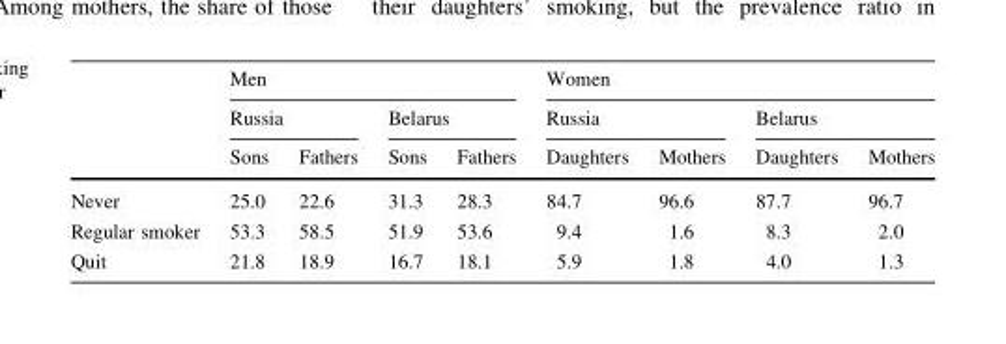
<table><thead><tr><td rowspan="3"></td><td colspan="4">Men</td><td colspan="4">Women</td></tr><tr><td colspan="2">Russia</td><td colspan="2">Belarus</td><td colspan="2">Russia</td><td colspan="2">Belarus</td></tr><tr><td>Sons</td><td>Fathers</td><td>Sons</td><td>Fathers</td><td>Daughters</td><td>Mothers</td><td>Daughters</td><td>Mothers</td></tr></thead><tbody><tr><td>Never</td><td>25.0</td><td>22.6</td><td>31.3</td><td>28.3</td><td>84.7</td><td>96.6</td><td>87.7</td><td>96.7</td></tr><tr><td>Regular smoker</td><td>53.3</td><td>58.5</td><td>51.9</td><td>53.6</td><td>9.4</td><td>1.6</td><td>8.3</td><td>2.0</td></tr><tr><td>Quit</td><td>21.8</td><td>18.9</td><td>16.7</td><td>18.1</td><td>5.9</td><td>1.8</td><td>4.0</td><td>1.3</td></tr></tbody></table>